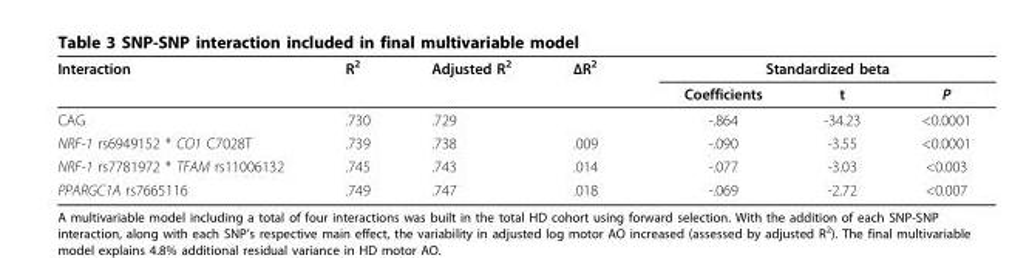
<table><thead><tr><td rowspan="2">Interaction</td><td rowspan="2">R<sup>2</sup></td><td rowspan="2">Adjusted R<sup>2</sup></td><td rowspan="2">ΔR<sup>2</sup></td><td colspan="3">Standardized beta</td></tr><tr><td>Coefficients</td><td>t</td><td>P</td></tr></thead><tbody><tr><td>CAG</td><td>.730</td><td>.729</td><td></td><td>-.864</td><td>-34.23</td><td>&lt;0.0001</td></tr><tr><td>NRF-1 rs6949152 * CO1 C7028T</td><td>.739</td><td>.738</td><td>.009</td><td>-.090</td><td>-3.55</td><td>&lt;0.0001</td></tr><tr><td>NRF-1 rs7781972 * TFAM rs11006132</td><td>.745</td><td>.743</td><td>.014</td><td>-.077</td><td>-3.03</td><td>&lt;0.003</td></tr><tr><td>PPARGC1A rs7665116</td><td>.749</td><td>.747</td><td>.018</td><td>-.069</td><td>-2.72</td><td>&lt;0.007</td></tr></tbody></table>